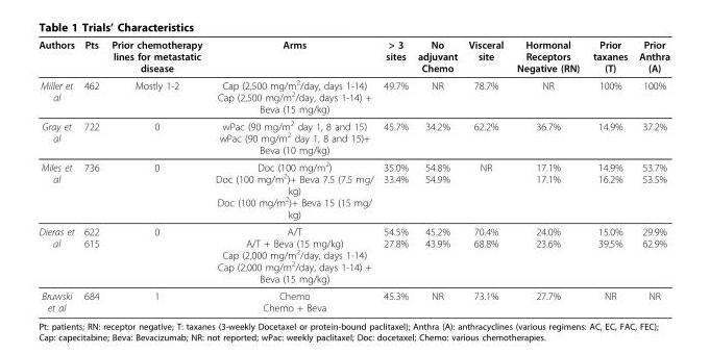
<table><thead><tr><td>Authors</td><td>Pts</td><td>Prior chemotherapy lines for metastatic disease</td><td>Arms</td><td>&gt; 3 sites</td><td>No adjuvant Chemo</td><td>Visceral site</td><td>Hormonal Receptors Negative (RN)</td><td>Prior taxanes (T)</td><td>Prior Anthra (A)</td></tr></thead><tbody><tr><td>Miller et al</td><td>462</td><td>Mostly 1-2</td><td>Cap (2,500 mg/m<sup>2</sup>/day, days 1-14) Cap (2,500 mg/m<sup>2</sup>/day, days 1-14) + Beva (15 mg/kg)</td><td>49.7%</td><td>NR</td><td>78.7%</td><td>NR</td><td>100%</td><td>100%</td></tr><tr><td>Gray et al</td><td>722</td><td>0</td><td>wPac (90 mg/m<sup>2</sup> day 1, 8 and 15) wPac (90 mg/m<sup>2</sup> day 1, 8 and 15)+ Beva (10 mg/kg)</td><td>45.7%</td><td>34.2%</td><td>62.2%</td><td>36.7%</td><td>14.9%</td><td>37.2%</td></tr><tr><td>Miles et al</td><td>736</td><td>0</td><td>Doc (100 mg/m<sup>2</sup>) Doc (100 mg/m<sup>2</sup>)+ Beva 7.5 (7.5 mg/ kg) Doc (100 mg/m<sup>2</sup>)+ Beva 15 (15 mg/ kg)</td><td>35.0% 33.4%</td><td>54.8% 54.9%</td><td>NR</td><td>17.1% 17.1%</td><td>14.9% 16.2%</td><td>53.7% 53.5%</td></tr><tr><td>Dieras et al</td><td>622 615</td><td>0</td><td>A/T A/T + Beva (15 mg/kg) Cap (2,000 mg/m<sup>2</sup>/day, days 1-14) Cap (2,000 mg/m<sup>2</sup>/day, days 1-14) + Beva (15 mg/kg)</td><td>54.5% 27.8%</td><td>45.2% 43.9%</td><td>70.4% 68.8%</td><td>24.0% 23.6%</td><td>15.0% 39.5%</td><td>29.9% 62.9%</td></tr><tr><td>Bruwski et al</td><td>684</td><td>1</td><td>Chemo Chemo + Beva</td><td>45.3%</td><td>NR</td><td>73.1%</td><td>27.7%</td><td>NR</td><td>NR</td></tr></tbody></table>